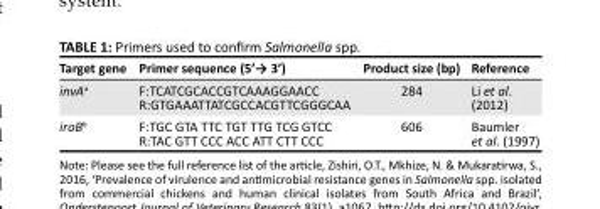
<table><thead><tr><td>Target gene</td><td>Primer sequence (5’→ 3’)</td><td>Product size (bp)</td><td>Reference</td></tr></thead><tbody><tr><td>invA<sup>a</sup></td><td>F:TCATCGCACCGTCAAAGGAACC R:GTGAAATTATCGCCACGTTCGGGCAA</td><td>284</td><td>Li et al. (2012)</td></tr><tr><td>iroB<sup>b</sup></td><td>F:TGC GTA TTC TGT TTG TCG GTCC R:TAC GTT CCC ACC ATT CTT CCC</td><td>606</td><td>Baumler et al. (1997)</td></tr></tbody></table>